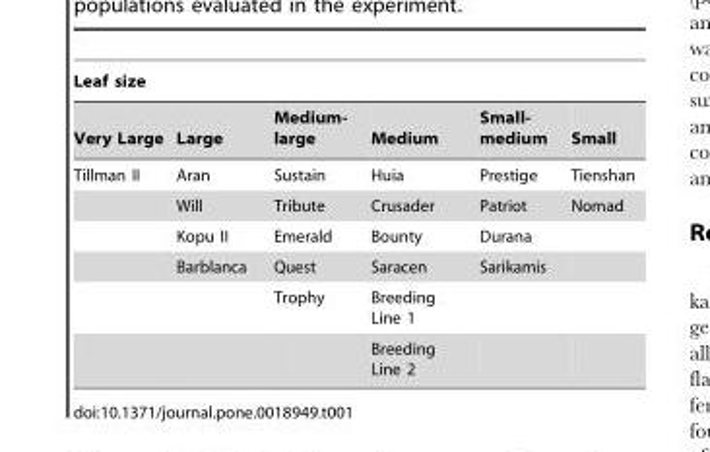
<table><thead><tr><td colspan="6">Leaf size</td></tr><tr><td>Very Large</td><td>Large</td><td>Medium- large</td><td>Medium</td><td>Small- medium</td><td>Small</td></tr></thead><tbody><tr><td rowspan="6">Tillman II</td><td>Aran</td><td>Sustain</td><td>Huia</td><td>Prestige</td><td>Tienshan</td></tr><tr><td>Will</td><td>Tribute</td><td>Crusader</td><td>Patriot</td><td>Nomad</td></tr><tr><td>Kopu II</td><td>Emerald</td><td>Bounty</td><td>Durana</td><td></td></tr><tr><td>Barblanca</td><td>Quest</td><td>Saracen</td><td>Sarikamis</td><td></td></tr><tr><td></td><td>Trophy</td><td>Breeding Line 1</td><td></td><td></td></tr><tr><td></td><td></td><td>Breeding Line 2</td><td></td><td></td></tr></tbody></table>